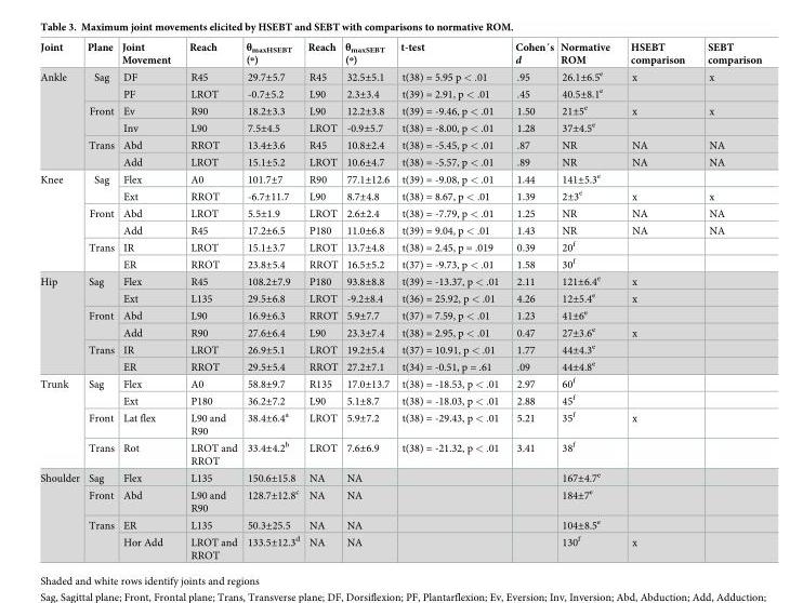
<table><thead><tr><td>Joint</td><td>Plane</td><td>Joint Movement</td><td>Reach</td><td>θ<sub>maxHSEBT</sub> (º)</td><td>Reach</td><td>θ<sub>maxSEBT</sub> (º)</td><td>t-test</td><td>Cohen´s d</td><td>Normative ROM</td><td>HSEBT comparison</td><td>SEBT comparison</td></tr></thead><tbody><tr><td rowspan="6">Ankle</td><td rowspan="2">Sag</td><td>DF</td><td>R45</td><td>29.7±5.7</td><td>R45</td><td>32.5±5.1</td><td>t(38) = 5.95 p &lt; .01</td><td>.95</td><td>26.1±6.5<sup>e</sup></td><td>x</td><td>x</td></tr><tr><td>PF</td><td>LROT</td><td>-0.7±5.2</td><td>L90</td><td>2.3±3.4</td><td>t(39) = 2.91, p &lt; .01</td><td>.45</td><td>40.5±8.1<sup>e</sup></td><td></td><td></td></tr><tr><td rowspan="2">Front</td><td>Ev</td><td>R90</td><td>18.2±3.3</td><td>L90</td><td>12.2±3.8</td><td>t(39) = -9.46, p &lt; .01</td><td>1.50</td><td>21±5<sup>e</sup></td><td>x</td><td>x</td></tr><tr><td>Inv</td><td>L90</td><td>7.5±4.5</td><td>LROT</td><td>-0.9±5.7</td><td>t(38) = -8.00, p &lt; .01</td><td>1.28</td><td>37±4.5<sup>e</sup></td><td></td><td></td></tr><tr><td rowspan="2">Trans</td><td>Abd</td><td>RROT</td><td>13.4±3.6</td><td>R45</td><td>10.8±2.4</td><td>t(38) = -5.45, p &lt; .01</td><td>.87</td><td>NR</td><td>NA</td><td>NA</td></tr><tr><td>Add</td><td>LROT</td><td>15.1±5.2</td><td>LROT</td><td>10.6±4.7</td><td>t(38) = -5.57, p &lt; .01</td><td>.89</td><td>NR</td><td>NA</td><td>NA</td></tr><tr><td rowspan="6">Knee</td><td rowspan="2">Sag</td><td>Flex</td><td>A0</td><td>101.7±7</td><td>R90</td><td>77.1±12.6</td><td>t(39) = -9.08, p &lt; .01</td><td>1.44</td><td>141±5.3<sup>e</sup></td><td></td><td></td></tr><tr><td>Ext</td><td>RROT</td><td>-6.7±11.7</td><td>L90</td><td>8.7±4.8</td><td>t(38) = 8.67, p &lt; .01</td><td>1.39</td><td>2±3<sup>e</sup></td><td>x</td><td>x</td></tr><tr><td rowspan="2">Front</td><td>Abd</td><td>LROT</td><td>5.5±1.9</td><td>LROT</td><td>2.6±2.4</td><td>t(38) = -7.79, p &lt; .01</td><td>1.25</td><td>NR</td><td>NA</td><td>NA</td></tr><tr><td>Add</td><td>R45</td><td>17.2±6.5</td><td>P180</td><td>11.0±6.8</td><td>t(39) = 9.04, p &lt; .01</td><td>1.43</td><td>NR</td><td>NA</td><td>NA</td></tr><tr><td rowspan="2">Trans</td><td>IR</td><td>LROT</td><td>15.1±3.7</td><td>LROT</td><td>13.7±4.8</td><td>t(38) = 2.45, p = .019</td><td>0.39</td><td>20<sup>f</sup></td><td></td><td></td></tr><tr><td>ER</td><td>RROT</td><td>23.8±5.4</td><td>RROT</td><td>16.5±5.2</td><td>t(37) = -9.73, p &lt; .01</td><td>1.58</td><td>30<sup>f</sup></td><td></td><td></td></tr><tr><td rowspan="6">Hip</td><td rowspan="2">Sag</td><td>Flex</td><td>R45</td><td>108.2±7.9</td><td>P180</td><td>93.8±8.8</td><td>t(39) = -13.37, p &lt; .01</td><td>2.11</td><td>121±6.4<sup>e</sup></td><td>x</td><td></td></tr><tr><td>Ext</td><td>L135</td><td>29.5±6.8</td><td>LROT</td><td>-9.2±8.4</td><td>t(36) = 25.92, p &lt; .01</td><td>4.26</td><td>12±5.4<sup>e</sup></td><td>x</td><td></td></tr><tr><td rowspan="2">Front</td><td>Abd</td><td>L90</td><td>16.9±6.3</td><td>RROT</td><td>5.9±7.7</td><td>t(37) = 7.59, p &lt; .01</td><td>1.23</td><td>41±6<sup>e</sup></td><td></td><td></td></tr><tr><td>Add</td><td>R90</td><td>27.6±6.4</td><td>L90</td><td>23.3±7.4</td><td>t(38) = 2.95, p &lt; .01</td><td>0.47</td><td>27±3.6<sup>e</sup></td><td>x</td><td></td></tr><tr><td rowspan="2">Trans</td><td>IR</td><td>LROT</td><td>26.9±5.1</td><td>LROT</td><td>19.2±5.4</td><td>t(37) = 10.91, p &lt; .01</td><td>1.77</td><td>44±4.3<sup>e</sup></td><td></td><td></td></tr><tr><td>ER</td><td>RROT</td><td>29.5±5.4</td><td>RROT</td><td>27.2±7.1</td><td>t(34) = -0.51, p = .61</td><td>.09</td><td>44±4.8<sup>e</sup></td><td></td><td></td></tr><tr><td rowspan="4">Trunk</td><td rowspan="2">Sag</td><td>Flex</td><td>A0</td><td>58.8±9.7</td><td>R135</td><td>17.0±13.7</td><td>t(38) = -18.53, p &lt; .01</td><td>2.97</td><td>60<sup>f</sup></td><td></td><td></td></tr><tr><td>Ext</td><td>P180</td><td>36.2±7.2</td><td>L90</td><td>5.1±8.7</td><td>t(38) = -18.03, p &lt; .01</td><td>2.88</td><td>45<sup>f</sup></td><td></td><td></td></tr><tr><td>Front</td><td>Lat flex</td><td>L90 and R90</td><td>38.4±6.4<sup>a</sup></td><td>LROT</td><td>5.9±7.2</td><td>t(38) = -29.43, p &lt; .01</td><td>5.21</td><td>35<sup>f</sup></td><td>x</td><td></td></tr><tr><td>Trans</td><td>Rot</td><td>LROT and RROT</td><td>33.4±4.2<sup>b</sup></td><td>LROT</td><td>7.6±6.9</td><td>t(38) = -21.32, p &lt; .01</td><td>3.41</td><td>38<sup>f</sup></td><td></td><td></td></tr><tr><td rowspan="4">Shoulder</td><td>Sag</td><td>Flex</td><td>L135</td><td>150.6±15.8</td><td>NA</td><td>NA</td><td></td><td></td><td>167±4.7<sup>e</sup></td><td></td><td></td></tr><tr><td>Front</td><td>Abd</td><td>L90 and R90</td><td>128.7±12.8<sup>c</sup></td><td>NA</td><td>NA</td><td></td><td></td><td>184±7<sup>e</sup></td><td></td><td></td></tr><tr><td rowspan="2">Trans</td><td>ER</td><td>L135</td><td>50.3±25.5</td><td>NA</td><td>NA</td><td></td><td></td><td>104±8.5<sup>e</sup></td><td></td><td></td></tr><tr><td>Hor Add</td><td>LROT and RROT</td><td>133.5±12.3<sup>d</sup></td><td>NA</td><td>NA</td><td></td><td></td><td>130<sup>f</sup></td><td>x</td><td></td></tr></tbody></table>